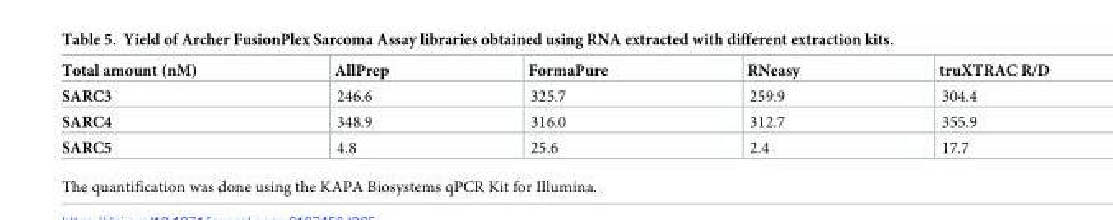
<table><thead><tr><td>Total amount (nM)</td><td>AllPrep</td><td>FormaPure</td><td>RNeasy</td><td>truXTRAC R/D</td></tr></thead><tbody><tr><td>SARC3</td><td>246.6</td><td>325.7</td><td>259.9</td><td>304.4</td></tr><tr><td>SARC4</td><td>348.9</td><td>316.0</td><td>312.7</td><td>355.9</td></tr><tr><td>SARC5</td><td>4.8</td><td>25.6</td><td>2.4</td><td>17.7</td></tr></tbody></table>